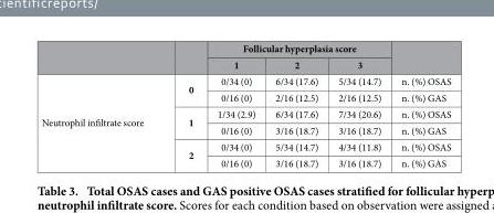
<table><thead><tr><td rowspan="2"></td><td rowspan="2"></td><td colspan="3">Follicular hyperplasia score</td><td rowspan="2"></td></tr><tr><td>1</td><td>2</td><td>3</td></tr></thead><tbody><tr><td rowspan="6">Neutrophil infiltrate score</td><td rowspan="2">0</td><td>0/34 (0)</td><td>6/34 (17.6)</td><td>5/34 (14.7)</td><td>n. (%) OSAS</td></tr><tr><td>0/16 (0)</td><td>2/16 (12.5)</td><td>2/16 (12.5)</td><td>n. (%) GAS</td></tr><tr><td rowspan="2">1</td><td>1/34 (2.9)</td><td>6/34 (17.6)</td><td>7/34 (20.6)</td><td>n. (%) OSAS</td></tr><tr><td>0/16 (0)</td><td>3/16 (18.7)</td><td>3/16 (18.7)</td><td>n. (%) GAS</td></tr><tr><td rowspan="2">2</td><td>0/34 (0)</td><td>5/34 (14.7)</td><td>4/34 (11.8)</td><td>n. (%) OSAS</td></tr><tr><td>0/16 (0)</td><td>3/16 (18.7)</td><td>3/16 (18.7)</td><td>n. (%) GAS</td></tr></tbody></table>